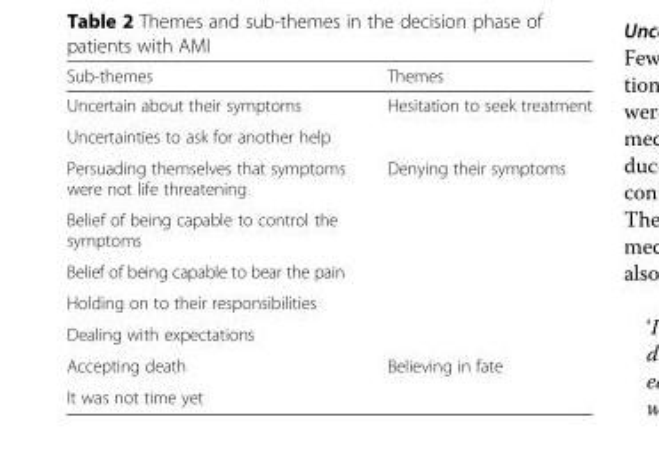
<table><thead><tr><td>Sub-themes</td><td>Themes</td></tr></thead><tbody><tr><td>Uncertain about their symptoms</td><td rowspan="2">Hesitation to seek treatment</td></tr><tr><td>Uncertainties to ask for another help</td></tr><tr><td>Persuading themselves that symptoms were not life threatening</td><td rowspan="5">Denying their symptoms</td></tr><tr><td>Belief of being capable to control the symptoms</td></tr><tr><td>Belief of being capable to bear the pain</td></tr><tr><td>Holding on to their responsibilities</td></tr><tr><td>Dealing with expectations</td></tr><tr><td>Accepting death</td><td rowspan="2">Believing in fate</td></tr><tr><td>It was not time yet</td></tr></tbody></table>